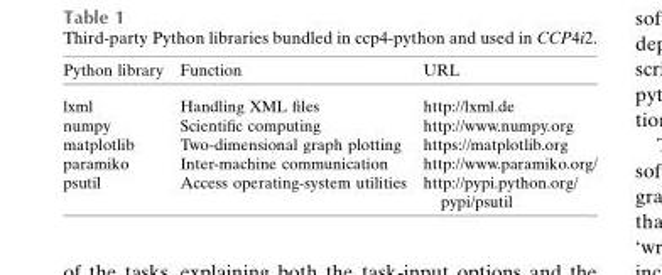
<table><thead><tr><td>Python library</td><td>Function</td><td>URL</td></tr></thead><tbody><tr><td>lxml</td><td>Handling XML files</td><td>http://lxml.de</td></tr><tr><td>numpy</td><td>Scientific computing</td><td>http://www.numpy.org</td></tr><tr><td>matplotlib</td><td>Two-dimensional graph plotting</td><td>https://matplotlib.org</td></tr><tr><td>paramiko</td><td>Inter-machine communication</td><td>http://www.paramiko.org/</td></tr><tr><td>psutil</td><td>Access operating-system utilities</td><td>http://pypi.python.org/ pypi/psutil</td></tr></tbody></table>